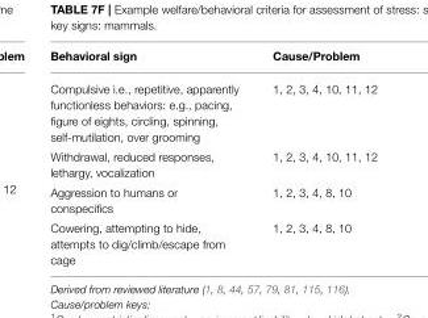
<table><thead><tr><td>Behavioral sign</td><td>Cause/Problem</td></tr></thead><tbody><tr><td>Compulsive i.e., repetitive, apparently functionless behaviors: e.g., pacing, figure of eights, circling, spinning, self-mutilation, over grooming</td><td>1, 2, 3, 4, 10, 11, 12</td></tr><tr><td>Withdrawal, reduced responses, lethargy, vocalization</td><td>1, 2, 3, 4, 10, 11, 12</td></tr><tr><td>Aggression to humans or conspecifics</td><td>1, 2, 3, 4, 8, 10</td></tr><tr><td>Cowering, attempting to hide, attempts to dig/climb/escape from cage</td><td>1, 2, 3, 4, 8, 10</td></tr></tbody></table>